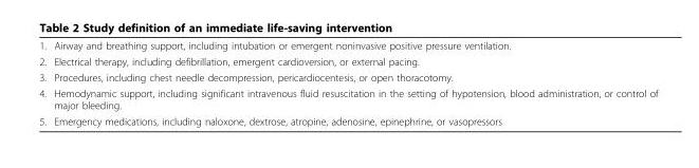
<table><tbody><tr><td>1.</td><td>Airway and breathing support, including intubation or emergent noninvasive positive pressure ventilation.</td></tr><tr><td>2.</td><td>Electrical therapy, including defibrillation, emergent cardioversion, or external pacing.</td></tr><tr><td>3.</td><td>Procedures, including chest needle decompression, pericardiocentesis, or open thoracotomy.</td></tr><tr><td>4.</td><td>Hemodynamic support, including significant intravenous fluid resuscitation in the setting of hypotension, blood administration, or control of major bleeding.</td></tr><tr><td>5.</td><td>Emergency medications, including naloxone, dextrose, atropine, adenosine, epinephrine, or vasopressors</td></tr></tbody></table>